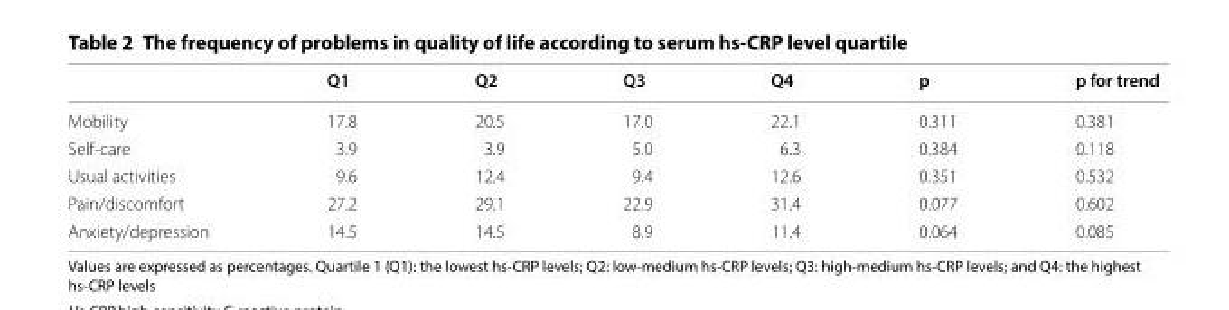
<table><thead><tr><td></td><td>Q1</td><td>Q2</td><td>Q3</td><td>Q4</td><td>p</td><td>p for trend</td></tr></thead><tbody><tr><td>Mobility</td><td>17.8</td><td>20.5</td><td>17.0</td><td>22.1</td><td>0.311</td><td>0.381</td></tr><tr><td>Self‑care</td><td>3.9</td><td>3.9</td><td>5.0</td><td>6.3</td><td>0.384</td><td>0.118</td></tr><tr><td>Usual activities</td><td>9.6</td><td>12.4</td><td>9.4</td><td>12.6</td><td>0.351</td><td>0.532</td></tr><tr><td>Pain/discomfort</td><td>27.2</td><td>29.1</td><td>22.9</td><td>31.4</td><td>0.077</td><td>0.602</td></tr><tr><td>Anxiety/depression</td><td>14.5</td><td>14.5</td><td>8.9</td><td>11.4</td><td>0.064</td><td>0.085</td></tr></tbody></table>